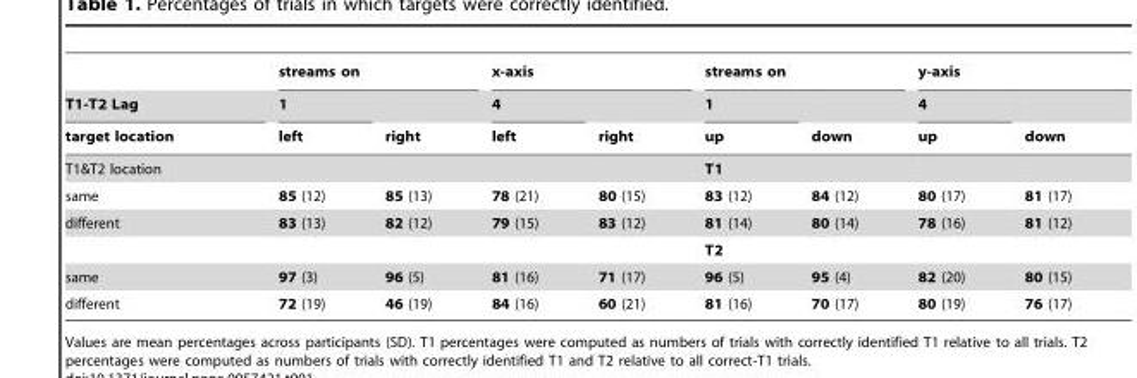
<table><thead><tr><td rowspan="3">T1-T2 Lag target location</td><td colspan="2">streams on</td><td colspan="2">x-axis</td><td colspan="2">streams on</td><td colspan="2">y-axis</td></tr><tr><td rowspan="2">1 left</td><td rowspan="2">right</td><td rowspan="2">4 left</td><td rowspan="2">right</td><td rowspan="2">1 up</td><td rowspan="2">down</td><td rowspan="2">4 up</td><td rowspan="2">down</td></tr><tr></tr></thead><tbody><tr><td>T1&amp;T2 location</td><td></td><td></td><td></td><td></td><td>T1</td><td></td><td></td><td></td></tr><tr><td>same</td><td>85 (12)</td><td>85 (13)</td><td>78 (21)</td><td>80 (15)</td><td>83 (12)</td><td>84 (12)</td><td>80 (17)</td><td>81 (17)</td></tr><tr><td rowspan="2">different</td><td>83 (13)</td><td>82 (12)</td><td>79 (15)</td><td>83 (12)</td><td>81 (14)</td><td>80 (14)</td><td>78 (16)</td><td>81 (12)</td></tr><tr><td></td><td></td><td></td><td></td><td>T2</td><td></td><td></td><td></td></tr><tr><td>same</td><td>97 (3)</td><td>96 (5)</td><td>81 (16)</td><td>71 (17)</td><td>96 (5)</td><td>95 (4)</td><td>82 (20)</td><td>80 (15)</td></tr><tr><td>different</td><td>72 (19)</td><td>46 (19)</td><td>84 (16)</td><td>60 (21)</td><td>81 (16)</td><td>70 (17)</td><td>80 (19)</td><td>76 (17)</td></tr></tbody></table>